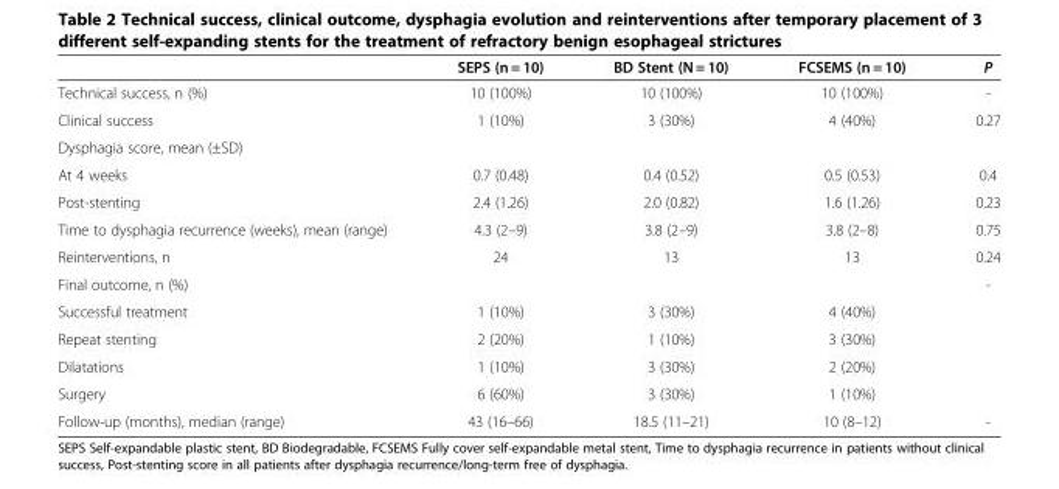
<table><thead><tr><td></td><td>SEPS (n = 10)</td><td>BD Stent (N = 10)</td><td>FCSEMS (n = 10)</td><td>P</td></tr></thead><tbody><tr><td>Technical success, n (%)</td><td>10 (100%)</td><td>10 (100%)</td><td>10 (100%)</td><td>-</td></tr><tr><td>Clinical success</td><td>1 (10%)</td><td>3 (30%)</td><td>4 (40%)</td><td>0.27</td></tr><tr><td colspan="5">Dysphagia score, mean (±SD)</td></tr><tr><td>At 4 weeks</td><td>0.7 (0.48)</td><td>0.4 (0.52)</td><td>0.5 (0.53)</td><td>0.4</td></tr><tr><td>Post-stenting</td><td>2.4 (1.26)</td><td>2.0 (0.82)</td><td>1.6 (1.26)</td><td>0.23</td></tr><tr><td>Time to dysphagia recurrence (weeks), mean (range)</td><td>4.3 (2–9)</td><td>3.8 (2–9)</td><td>3.8 (2–8)</td><td>0.75</td></tr><tr><td>Reinterventions, n</td><td>24</td><td>13</td><td>13</td><td>0.24</td></tr><tr><td>Final outcome, n (%)</td><td></td><td></td><td></td><td>-</td></tr><tr><td>Successful treatment</td><td>1 (10%)</td><td>3 (30%)</td><td>4 (40%)</td><td></td></tr><tr><td>Repeat stenting</td><td>2 (20%)</td><td>1 (10%)</td><td>3 (30%)</td><td></td></tr><tr><td>Dilatations</td><td>1 (10%)</td><td>3 (30%)</td><td>2 (20%)</td><td></td></tr><tr><td>Surgery</td><td>6 (60%)</td><td>3 (30%)</td><td>1 (10%)</td><td></td></tr><tr><td>Follow-up (months), median (range)</td><td>43 (16–66)</td><td>18.5 (11–21)</td><td>10 (8–12)</td><td>-</td></tr></tbody></table>